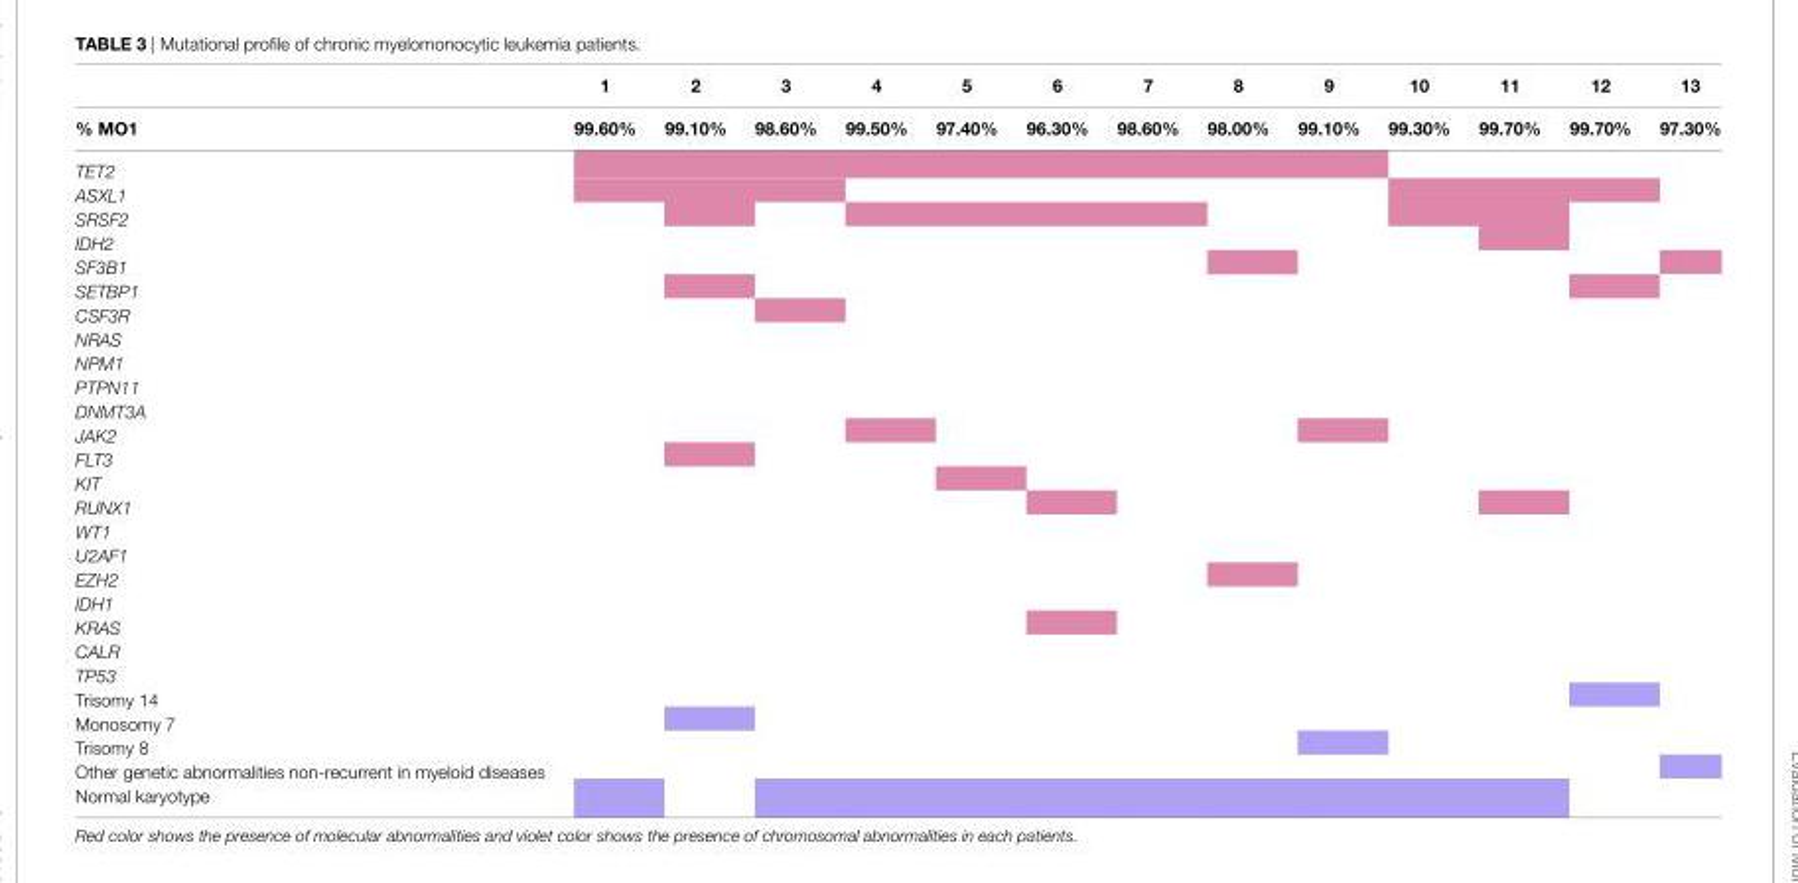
<table><thead><tr><td rowspan="2">% MO1</td><td rowspan="2">1 99.60%</td><td rowspan="2">2 99.10%</td><td rowspan="2">3 98.60%</td><td rowspan="2">4 99.50%</td><td rowspan="2">5 97.40%</td><td rowspan="2">6 96.30%</td><td rowspan="2">7 98.60%</td><td rowspan="2">8 98.00%</td><td rowspan="2">9 99.10%</td><td rowspan="2">10 99.30%</td><td rowspan="2">11 99.70%</td><td rowspan="2">12 99.70%</td><td rowspan="2">13 97.30%</td></tr><tr></tr></thead><tbody><tr><td colspan="14">TET2</td></tr><tr><td colspan="14">ASXL1</td></tr><tr><td colspan="14">SRSF2</td></tr><tr><td colspan="14">IDH2</td></tr><tr><td colspan="14">SF3B1</td></tr><tr><td colspan="14">SETBP1</td></tr><tr><td colspan="14">CSF3R</td></tr><tr><td colspan="14">NRAS</td></tr><tr><td colspan="14">NPM1</td></tr><tr><td colspan="14">PTPN11</td></tr><tr><td colspan="14">DNMT3A</td></tr><tr><td colspan="14">JAK2</td></tr><tr><td colspan="14">FLT3</td></tr><tr><td colspan="14">KIT</td></tr><tr><td colspan="14">RUNX1</td></tr><tr><td colspan="14">WT1</td></tr><tr><td colspan="14">U2AF1</td></tr><tr><td colspan="14">EZH2</td></tr><tr><td colspan="14">IDH1</td></tr><tr><td colspan="14">KRAS</td></tr><tr><td colspan="14">CALR</td></tr><tr><td colspan="14">TP53</td></tr><tr><td colspan="14">Trisomy 14</td></tr><tr><td colspan="14">Monosomy 7</td></tr><tr><td colspan="14">Trisomy 8</td></tr><tr><td colspan="14">Other genetic abnormalities non-recurrent in myeloid diseases</td></tr><tr><td>Normal karyotype</td><td></td><td></td><td></td><td></td><td></td><td></td><td></td><td></td><td></td><td></td><td></td><td></td><td></td></tr></tbody></table>